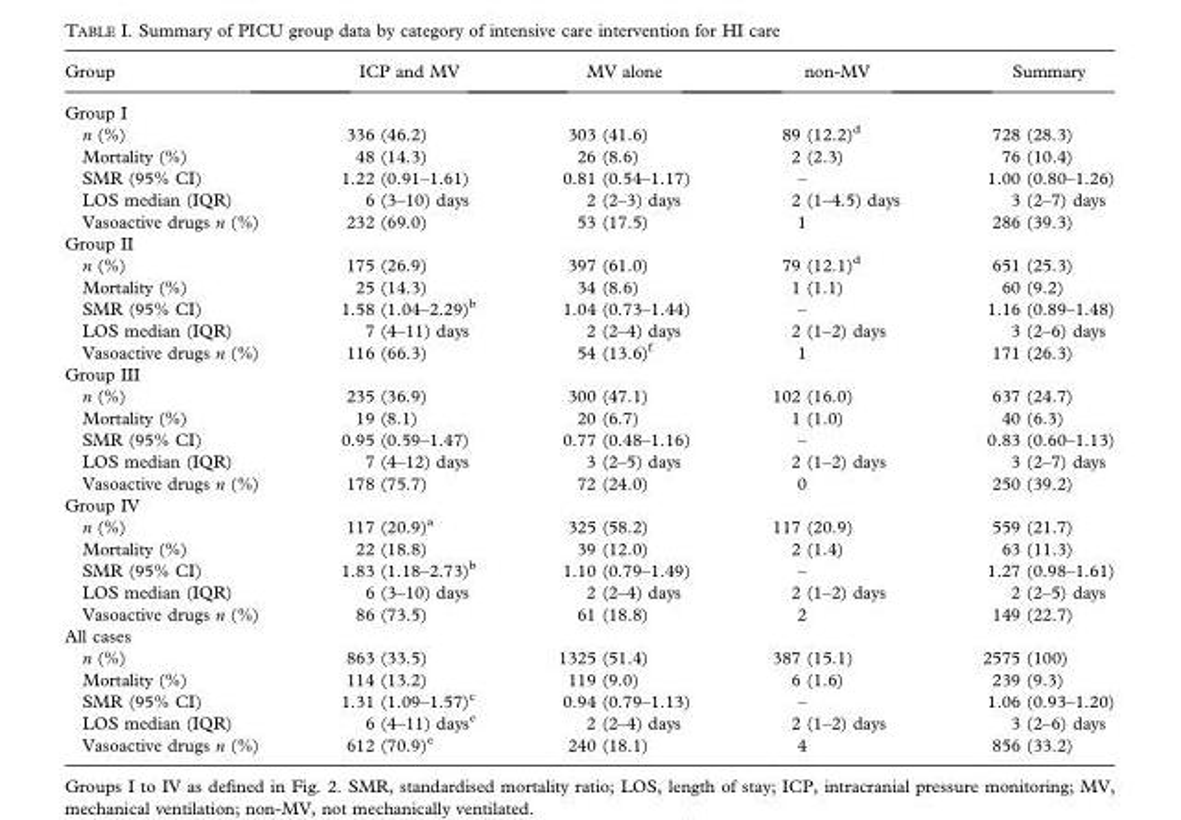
<table><thead><tr><td>Group</td><td>ICP and MV</td><td>MV alone</td><td>non-MV</td><td>Summary</td></tr></thead><tbody><tr><td colspan="5">Group I</td></tr><tr><td>n (%)</td><td>336 (46.2)</td><td>303 (41.6)</td><td>89 (12.2)<sup>d</sup></td><td>728 (28.3)</td></tr><tr><td>Mortality (%)</td><td>48 (14.3)</td><td>26 (8.6)</td><td>2 (2.3)</td><td>76 (10.4)</td></tr><tr><td>SMR (95% CI)</td><td>1.22 (0.91–1.61)</td><td>0.81 (0.54–1.17)</td><td>–</td><td>1.00 (0.80–1.26)</td></tr><tr><td>LOS median (IQR)</td><td>6 (3–10) days</td><td>2 (2–3) days</td><td>2 (1–4.5) days</td><td>3 (2–7) days</td></tr><tr><td>Vasoactive drugs n (%)</td><td>232 (69.0)</td><td>53 (17.5)</td><td>1</td><td>286 (39.3)</td></tr><tr><td colspan="5">Group II</td></tr><tr><td>n (%)</td><td>175 (26.9)</td><td>397 (61.0)</td><td>79 (12.1)<sup>d</sup></td><td>651 (25.3)</td></tr><tr><td>Mortality (%)</td><td>25 (14.3)</td><td>34 (8.6)</td><td>1 (1.1)</td><td>60 (9.2)</td></tr><tr><td>SMR (95% CI)</td><td>1.58 (1.04–2.29)<sup>b</sup></td><td>1.04 (0.73–1.44)</td><td>–</td><td>1.16 (0.89–1.48)</td></tr><tr><td>LOS median (IQR)</td><td>7 (4–11) days</td><td>2 (2–4) days</td><td>2 (1–2) days</td><td>3 (2–6) days</td></tr><tr><td>Vasoactive drugs n (%)</td><td>116 (66.3)</td><td>54 (13.6)<sup>f</sup></td><td>1</td><td>171 (26.3)</td></tr><tr><td colspan="5">Group III</td></tr><tr><td>n (%)</td><td>235 (36.9)</td><td>300 (47.1)</td><td>102 (16.0)</td><td>637 (24.7)</td></tr><tr><td>Mortality (%)</td><td>19 (8.1)</td><td>20 (6.7)</td><td>1 (1.0)</td><td>40 (6.3)</td></tr><tr><td>SMR (95% CI)</td><td>0.95 (0.59–1.47)</td><td>0.77 (0.48–1.16)</td><td>–</td><td>0.83 (0.60–1.13)</td></tr><tr><td>LOS median (IQR)</td><td>7 (4–12) days</td><td>3 (2–5) days</td><td>2 (1–2) days</td><td>3 (2–7) days</td></tr><tr><td>Vasoactive drugs n (%)</td><td>178 (75.7)</td><td>72 (24.0)</td><td>0</td><td>250 (39.2)</td></tr><tr><td colspan="5">Group IV</td></tr><tr><td>n (%)</td><td>117 (20.9)<sup>a</sup></td><td>325 (58.2)</td><td>117 (20.9)</td><td>559 (21.7)</td></tr><tr><td>Mortality (%)</td><td>22 (18.8)</td><td>39 (12.0)</td><td>2 (1.4)</td><td>63 (11.3)</td></tr><tr><td>SMR (95% CI)</td><td>1.83 (1.18–2.73)<sup>b</sup></td><td>1.10 (0.79–1.49)</td><td>–</td><td>1.27 (0.98–1.61)</td></tr><tr><td>LOS median (IQR)</td><td>6 (3–10) days</td><td>2 (2–4) days</td><td>2 (1–2) days</td><td>2 (2–5) days</td></tr><tr><td>Vasoactive drugs n (%)</td><td>86 (73.5)</td><td>61 (18.8)</td><td>2</td><td>149 (22.7)</td></tr><tr><td colspan="5">All cases</td></tr><tr><td>n (%)</td><td>863 (33.5)</td><td>1325 (51.4)</td><td>387 (15.1)</td><td>2575 (100)</td></tr><tr><td>Mortality (%)</td><td>114 (13.2)</td><td>119 (9.0)</td><td>6 (1.6)</td><td>239 (9.3)</td></tr><tr><td>SMR (95% CI)</td><td>1.31 (1.09–1.57)<sup>c</sup></td><td>0.94 (0.79–1.13)</td><td>–</td><td>1.06 (0.93–1.20)</td></tr><tr><td>LOS median (IQR)</td><td>6 (4–11) days<sup>e</sup></td><td>2 (2–4) days</td><td>2 (1–2) days</td><td>3 (2–6) days</td></tr><tr><td>Vasoactive drugs n (%)</td><td>612 (70.9)<sup>e</sup></td><td>240 (18.1)</td><td>4</td><td>856 (33.2)</td></tr></tbody></table>